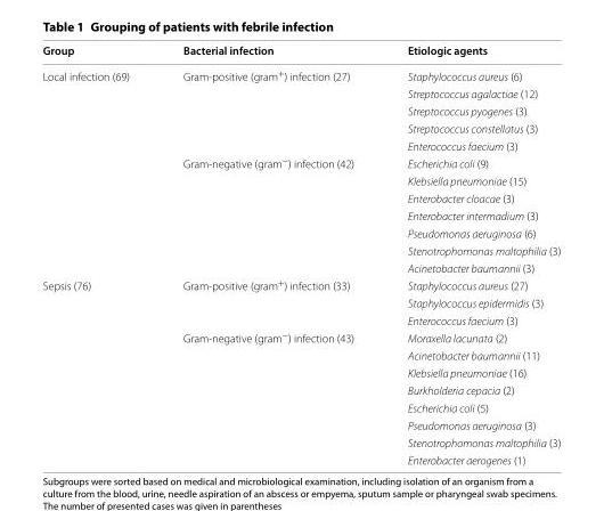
<table><thead><tr><td>Group</td><td>Bacterial infection</td><td>Etiologic agents</td></tr></thead><tbody><tr><td rowspan="12">Local infection (69)</td><td rowspan="5">Gram-positive (gram<sup>+</sup>) infection (27)</td><td>Staphylococcus aureus (6)</td></tr><tr><td>Streptococcus agalactiae (12)</td></tr><tr><td>Streptococcus pyogenes (3)</td></tr><tr><td>Streptococcus constellatus (3)</td></tr><tr><td>Enterococcus faecium (3)</td></tr><tr><td rowspan="7">Gram-negative (gram<sup>−</sup>) infection (42)</td><td>Escherichia coli (9)</td></tr><tr><td>Klebsiella pneumoniae (15)</td></tr><tr><td>Enterobacter cloacae (3)</td></tr><tr><td>Enterobacter intermadium (3)</td></tr><tr><td>Pseudomonas aeruginosa (6)</td></tr><tr><td>Stenotrophomonas maltophilia (3)</td></tr><tr><td>Acinetobacter baumannii (3)</td></tr><tr><td rowspan="11">Sepsis (76)</td><td rowspan="3">Gram-positive (gram<sup>+</sup>) infection (33)</td><td>Staphylococcus aureus (27)</td></tr><tr><td>Staphylococcus epidermidis (3)</td></tr><tr><td>Enterococcus faecium (3)</td></tr><tr><td rowspan="8">Gram-negative (gram<sup>−</sup>) infection (43)</td><td>Moraxella lacunata (2)</td></tr><tr><td>Acinetobacter baumannii (11)</td></tr><tr><td>Klebsiella pneumoniae (16)</td></tr><tr><td>Burkholderia cepacia (2)</td></tr><tr><td>Escherichia coli (5)</td></tr><tr><td>Pseudomonas aeruginosa (3)</td></tr><tr><td>Stenotrophomonas maltophilia (3)</td></tr><tr><td>Enterobacter aerogenes (1)</td></tr></tbody></table>